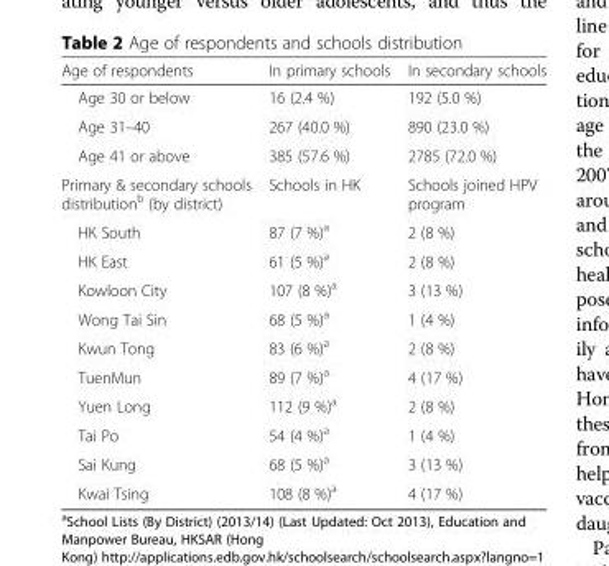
<table><thead><tr><td>Age of respondents</td><td>In primary schools</td><td>In secondary schools</td></tr></thead><tbody><tr><td>Age 30 or below</td><td>16 (2.4 %)</td><td>192 (5.0 %)</td></tr><tr><td>Age 31–40</td><td>267 (40.0 %)</td><td>890 (23.0 %)</td></tr><tr><td>Age 41 or above</td><td>385 (57.6 %)</td><td>2785 (72.0 %)</td></tr><tr><td>Primary &amp; secondary schools distribution<sup>b</sup> (by district)</td><td>Schools in HK</td><td>Schools joined HPV program</td></tr><tr><td>HK South</td><td>87 (7 %)<sup>a</sup></td><td>2 (8 %)</td></tr><tr><td>HK East</td><td>61 (5 %)<sup>a</sup></td><td>2 (8 %)</td></tr><tr><td>Kowloon City</td><td>107 (8 %)<sup>a</sup></td><td>3 (13 %)</td></tr><tr><td>Wong Tai Sin</td><td>68 (5 %)<sup>a</sup></td><td>1 (4 %)</td></tr><tr><td>Kwun Tong</td><td>83 (6 %)<sup>a</sup></td><td>2 (8 %)</td></tr><tr><td>TuenMun</td><td>89 (7 %)<sup>a</sup></td><td>4 (17 %)</td></tr><tr><td>Yuen Long</td><td>112 (9 %)<sup>a</sup></td><td>2 (8 %)</td></tr><tr><td>Tai Po</td><td>54 (4 %)<sup>a</sup></td><td>1 (4 %)</td></tr><tr><td>Sai Kung</td><td>68 (5 %)<sup>a</sup></td><td>3 (13 %)</td></tr><tr><td>Kwai Tsing</td><td>108 (8 %)<sup>a</sup></td><td>4 (17 %)</td></tr></tbody></table>